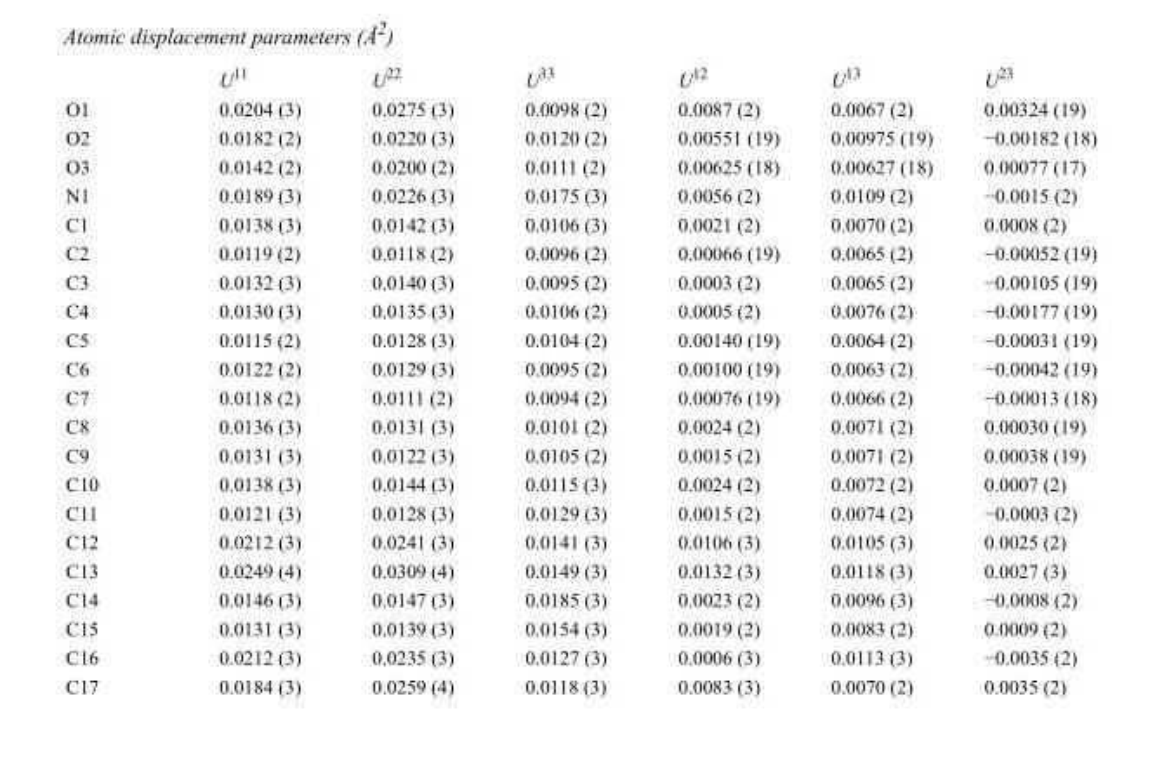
<table><thead><tr><td></td><td>U<sup>11</sup></td><td>U<sup>22</sup></td><td>U<sup>33</sup></td><td>U<sup>12</sup></td><td>U<sup>13</sup></td><td>U<sup>23</sup></td></tr></thead><tbody><tr><td>O1</td><td>0.0204 (3)</td><td>0.0275 (3)</td><td>0.0098 (2)</td><td>0.0087 (2)</td><td>0.0067 (2)</td><td>0.00324 (19)</td></tr><tr><td>O2</td><td>0.0182 (2)</td><td>0.0220 (3)</td><td>0.0120 (2)</td><td>0.00551 (19)</td><td>0.00975 (19)</td><td>−0.00182 (18)</td></tr><tr><td>O3</td><td>0.0142 (2)</td><td>0.0200 (2)</td><td>0.0111 (2)</td><td>0.00625 (18)</td><td>0.00627 (18)</td><td>0.00077 (17)</td></tr><tr><td>N1</td><td>0.0189 (3)</td><td>0.0226 (3)</td><td>0.0175 (3)</td><td>0.0056 (2)</td><td>0.0109 (2)</td><td>−0.0015 (2)</td></tr><tr><td>C1</td><td>0.0138 (3)</td><td>0.0142 (3)</td><td>0.0106 (3)</td><td>0.0021 (2)</td><td>0.0070 (2)</td><td>0.0008 (2)</td></tr><tr><td>C2</td><td>0.0119 (2)</td><td>0.0118 (2)</td><td>0.0096 (2)</td><td>0.00066 (19)</td><td>0.0065 (2)</td><td>−0.00052 (19)</td></tr><tr><td>C3</td><td>0.0132 (3)</td><td>0.0140 (3)</td><td>0.0095 (2)</td><td>0.0003 (2)</td><td>0.0065 (2)</td><td>−0.00105 (19)</td></tr><tr><td>C4</td><td>0.0130 (3)</td><td>0.0135 (3)</td><td>0.0106 (2)</td><td>0.0005 (2)</td><td>0.0076 (2)</td><td>−0.00177 (19)</td></tr><tr><td>C5</td><td>0.0115 (2)</td><td>0.0128 (3)</td><td>0.0104 (2)</td><td>0.00140 (19)</td><td>0.0064 (2)</td><td>−0.00031 (19)</td></tr><tr><td>C6</td><td>0.0122 (2)</td><td>0.0129 (3)</td><td>0.0095 (2)</td><td>0.00100 (19)</td><td>0.0063 (2)</td><td>−0.00042 (19)</td></tr><tr><td>C7</td><td>0.0118 (2)</td><td>0.0111 (2)</td><td>0.0094 (2)</td><td>0.00076 (19)</td><td>0.0066 (2)</td><td>−0.00013 (18)</td></tr><tr><td>C8</td><td>0.0136 (3)</td><td>0.0131 (3)</td><td>0.0101 (2)</td><td>0.0024 (2)</td><td>0.0071 (2)</td><td>0.00030 (19)</td></tr><tr><td>C9</td><td>0.0131 (3)</td><td>0.0122 (3)</td><td>0.0105 (2)</td><td>0.0015 (2)</td><td>0.0071 (2)</td><td>0.00038 (19)</td></tr><tr><td>C10</td><td>0.0138 (3)</td><td>0.0144 (3)</td><td>0.0115 (3)</td><td>0.0024 (2)</td><td>0.0072 (2)</td><td>0.0007 (2)</td></tr><tr><td>C11</td><td>0.0121 (3)</td><td>0.0128 (3)</td><td>0.0129 (3)</td><td>0.0015 (2)</td><td>0.0074 (2)</td><td>−0.0003 (2)</td></tr><tr><td>C12</td><td>0.0212 (3)</td><td>0.0241 (3)</td><td>0.0141 (3)</td><td>0.0106 (3)</td><td>0.0105 (3)</td><td>0.0025 (2)</td></tr><tr><td>C13</td><td>0.0249 (4)</td><td>0.0309 (4)</td><td>0.0149 (3)</td><td>0.0132 (3)</td><td>0.0118 (3)</td><td>0.0027 (3)</td></tr><tr><td>C14</td><td>0.0146 (3)</td><td>0.0147 (3)</td><td>0.0185 (3)</td><td>0.0023 (2)</td><td>0.0096 (3)</td><td>−0.0008 (2)</td></tr><tr><td>C15</td><td>0.0131 (3)</td><td>0.0139 (3)</td><td>0.0154 (3)</td><td>0.0019 (2)</td><td>0.0083 (2)</td><td>0.0009 (2)</td></tr><tr><td>C16</td><td>0.0212 (3)</td><td>0.0235 (3)</td><td>0.0127 (3)</td><td>0.0006 (3)</td><td>0.0113 (3)</td><td>−0.0035 (2)</td></tr><tr><td>C17</td><td>0.0184 (3)</td><td>0.0259 (4)</td><td>0.0118 (3)</td><td>0.0083 (3)</td><td>0.0070 (2)</td><td>0.0035 (2)</td></tr></tbody></table>